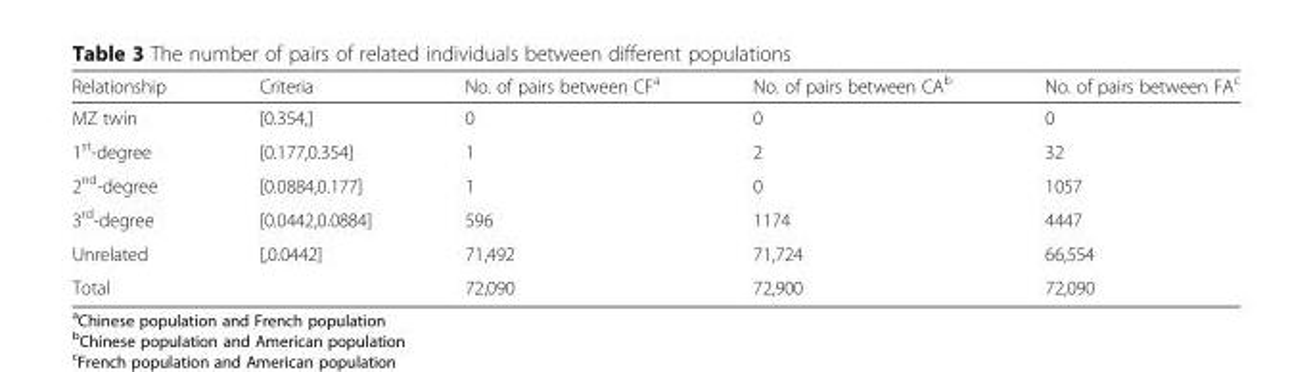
<table><thead><tr><td>Relationship</td><td>Criteria</td><td>No. of pairs between CF<sup>a</sup></td><td>No. of pairs between CA<sup>b</sup></td><td>No. of pairs between FA<sup>c</sup></td></tr></thead><tbody><tr><td>MZ twin</td><td>[0.354,]</td><td>0</td><td>0</td><td>0</td></tr><tr><td>1<sup>st</sup>-degree</td><td>[0.177,0.354]</td><td>1</td><td>2</td><td>32</td></tr><tr><td>2<sup>nd</sup>-degree</td><td>[0.0884,0.177]</td><td>1</td><td>0</td><td>1057</td></tr><tr><td>3<sup>rd</sup>-degree</td><td>[0.0442,0.0884]</td><td>596</td><td>1174</td><td>4447</td></tr><tr><td>Unrelated</td><td>[,0.0442]</td><td>71,492</td><td>71,724</td><td>66,554</td></tr><tr><td>Total</td><td></td><td>72,090</td><td>72,900</td><td>72,090</td></tr></tbody></table>